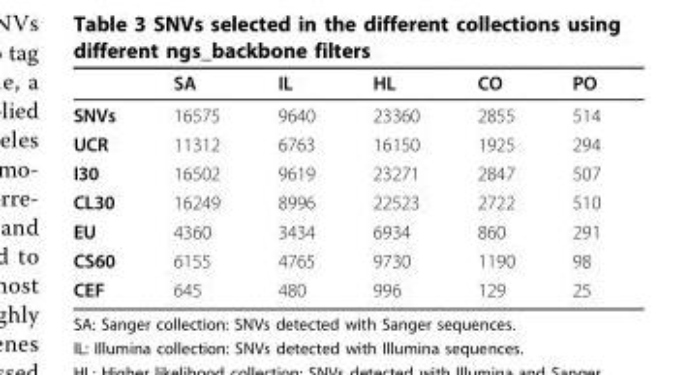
<table><thead><tr><td></td><td>SA</td><td>IL</td><td>HL</td><td>CO</td><td>PO</td></tr></thead><tbody><tr><td>SNVs</td><td>16575</td><td>9640</td><td>23360</td><td>2855</td><td>514</td></tr><tr><td>UCR</td><td>11312</td><td>6763</td><td>16150</td><td>1925</td><td>294</td></tr><tr><td>I30</td><td>16502</td><td>9619</td><td>23271</td><td>2847</td><td>507</td></tr><tr><td>CL30</td><td>16249</td><td>8996</td><td>22523</td><td>2722</td><td>510</td></tr><tr><td>EU</td><td>4360</td><td>3434</td><td>6934</td><td>860</td><td>291</td></tr><tr><td>CS60</td><td>6155</td><td>4765</td><td>9730</td><td>1190</td><td>98</td></tr><tr><td>CEF</td><td>645</td><td>480</td><td>996</td><td>129</td><td>25</td></tr></tbody></table>